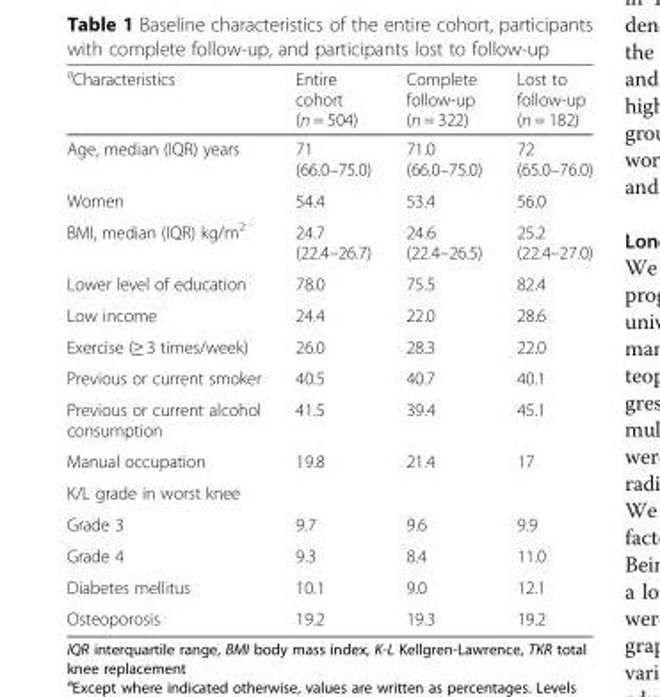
<table><thead><tr><td><sup>a</sup>Characteristics</td><td>Entire cohort (n = 504)</td><td>Complete follow-up (n = 322)</td><td>Lost to follow-up (n = 182)</td></tr></thead><tbody><tr><td>Age, median (IQR) years</td><td>71 (66.0–75.0)</td><td>71.0 (66.0–75.0)</td><td>72 (65.0–76.0)</td></tr><tr><td>Women</td><td>54.4</td><td>53.4</td><td>56.0</td></tr><tr><td>BMI, median (IQR) kg/m<sup>2</sup></td><td>24.7 (22.4–26.7)</td><td>24.6 (22.4–26.5)</td><td>25.2 (22.4–27.0)</td></tr><tr><td>Lower level of education</td><td>78.0</td><td>75.5</td><td>82.4</td></tr><tr><td>Low income</td><td>24.4</td><td>22.0</td><td>28.6</td></tr><tr><td>Exercise (≥ 3 times/week)</td><td>26.0</td><td>28.3</td><td>22.0</td></tr><tr><td>Previous or current smoker</td><td>40.5</td><td>40.7</td><td>40.1</td></tr><tr><td>Previous or current alcohol consumption</td><td>41.5</td><td>39.4</td><td>45.1</td></tr><tr><td>Manual occupation</td><td>19.8</td><td>21.4</td><td>17</td></tr><tr><td colspan="4">K/L grade in worst knee</td></tr><tr><td>Grade 3</td><td>9.7</td><td>9.6</td><td>9.9</td></tr><tr><td>Grade 4</td><td>9.3</td><td>8.4</td><td>11.0</td></tr><tr><td>Diabetes mellitus</td><td>10.1</td><td>9.0</td><td>12.1</td></tr><tr><td>Osteoporosis</td><td>19.2</td><td>19.3</td><td>19.2</td></tr></tbody></table>